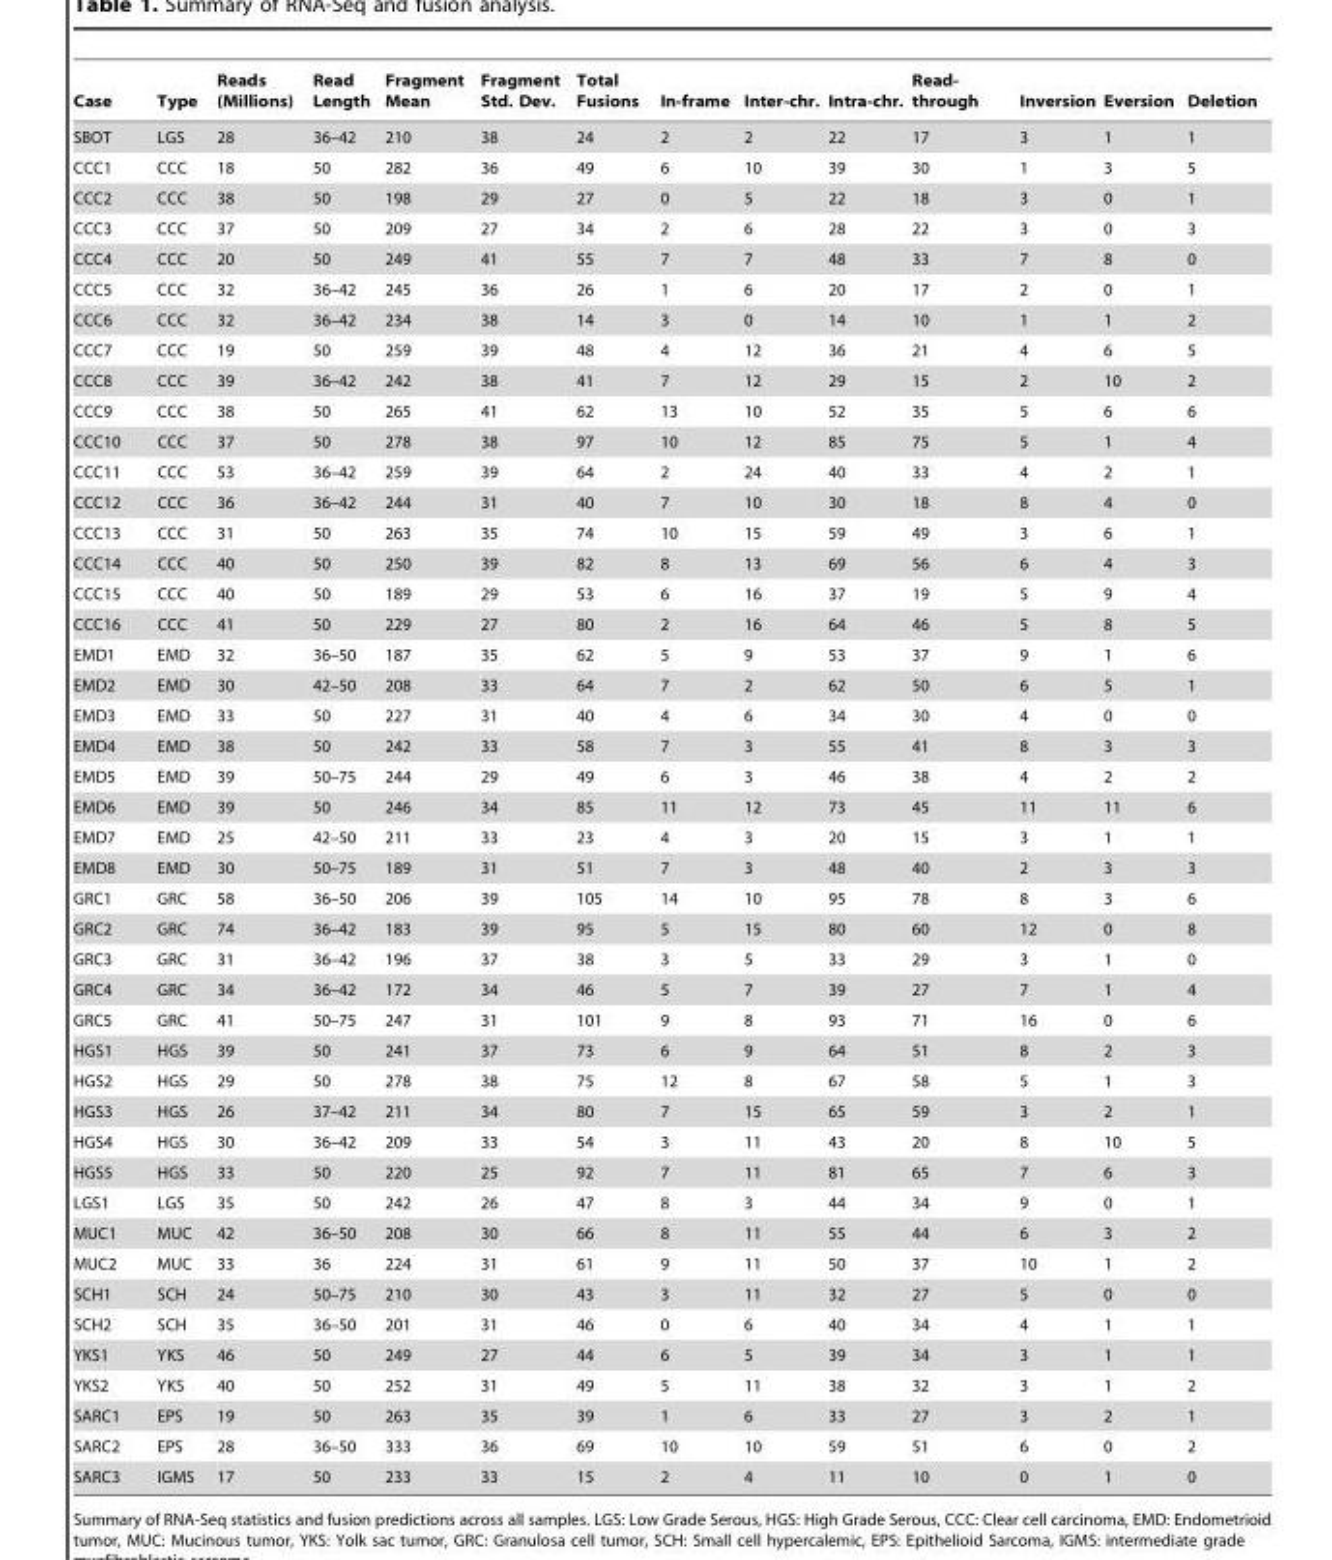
<table><thead><tr><td>Case</td><td>Type</td><td>Reads (Millions)</td><td>Read Length</td><td>Fragment Mean</td><td>Fragment Std. Dev.</td><td>Total Fusions</td><td>In-frame</td><td>Inter-chr.</td><td>Intra-chr.</td><td>Read- through</td><td>Inversion</td><td>Eversion</td><td>Deletion</td></tr></thead><tbody><tr><td>SBOT</td><td>LGS</td><td>28</td><td>36–42</td><td>210</td><td>38</td><td>24</td><td>2</td><td>2</td><td>22</td><td>17</td><td>3</td><td>1</td><td>1</td></tr><tr><td>CCC1</td><td>CCC</td><td>18</td><td>50</td><td>282</td><td>36</td><td>49</td><td>6</td><td>10</td><td>39</td><td>30</td><td>1</td><td>3</td><td>5</td></tr><tr><td>CCC2</td><td>CCC</td><td>38</td><td>50</td><td>198</td><td>29</td><td>27</td><td>0</td><td>5</td><td>22</td><td>18</td><td>3</td><td>0</td><td>1</td></tr><tr><td>CCC3</td><td>CCC</td><td>37</td><td>50</td><td>209</td><td>27</td><td>34</td><td>2</td><td>6</td><td>28</td><td>22</td><td>3</td><td>0</td><td>3</td></tr><tr><td>CCC4</td><td>CCC</td><td>20</td><td>50</td><td>249</td><td>41</td><td>55</td><td>7</td><td>7</td><td>48</td><td>33</td><td>7</td><td>8</td><td>0</td></tr><tr><td>CCC5</td><td>CCC</td><td>32</td><td>36–42</td><td>245</td><td>36</td><td>26</td><td>1</td><td>6</td><td>20</td><td>17</td><td>2</td><td>0</td><td>1</td></tr><tr><td>CCC6</td><td>CCC</td><td>32</td><td>36–42</td><td>234</td><td>38</td><td>14</td><td>3</td><td>0</td><td>14</td><td>10</td><td>1</td><td>1</td><td>2</td></tr><tr><td>CCC7</td><td>CCC</td><td>19</td><td>50</td><td>259</td><td>39</td><td>48</td><td>4</td><td>12</td><td>36</td><td>21</td><td>4</td><td>6</td><td>5</td></tr><tr><td>CCC8</td><td>CCC</td><td>39</td><td>36–42</td><td>242</td><td>38</td><td>41</td><td>7</td><td>12</td><td>29</td><td>15</td><td>2</td><td>10</td><td>2</td></tr><tr><td>CCC9</td><td>CCC</td><td>38</td><td>50</td><td>265</td><td>41</td><td>62</td><td>13</td><td>10</td><td>52</td><td>35</td><td>5</td><td>6</td><td>6</td></tr><tr><td>CCC10</td><td>CCC</td><td>37</td><td>50</td><td>278</td><td>38</td><td>97</td><td>10</td><td>12</td><td>85</td><td>75</td><td>5</td><td>1</td><td>4</td></tr><tr><td>CCC11</td><td>CCC</td><td>53</td><td>36–42</td><td>259</td><td>39</td><td>64</td><td>2</td><td>24</td><td>40</td><td>33</td><td>4</td><td>2</td><td>1</td></tr><tr><td>CCC12</td><td>CCC</td><td>36</td><td>36–42</td><td>244</td><td>31</td><td>40</td><td>7</td><td>10</td><td>30</td><td>18</td><td>8</td><td>4</td><td>0</td></tr><tr><td>CCC13</td><td>CCC</td><td>31</td><td>50</td><td>263</td><td>35</td><td>74</td><td>10</td><td>15</td><td>59</td><td>49</td><td>3</td><td>6</td><td>1</td></tr><tr><td>CCC14</td><td>CCC</td><td>40</td><td>50</td><td>250</td><td>39</td><td>82</td><td>8</td><td>13</td><td>69</td><td>56</td><td>6</td><td>4</td><td>3</td></tr><tr><td>CCC15</td><td>CCC</td><td>40</td><td>50</td><td>189</td><td>29</td><td>53</td><td>6</td><td>16</td><td>37</td><td>19</td><td>5</td><td>9</td><td>4</td></tr><tr><td>CCC16</td><td>CCC</td><td>41</td><td>50</td><td>229</td><td>27</td><td>80</td><td>2</td><td>16</td><td>64</td><td>46</td><td>5</td><td>8</td><td>5</td></tr><tr><td>EMD1</td><td>EMD</td><td>32</td><td>36–50</td><td>187</td><td>35</td><td>62</td><td>5</td><td>9</td><td>53</td><td>37</td><td>9</td><td>1</td><td>6</td></tr><tr><td>EMD2</td><td>EMD</td><td>30</td><td>42–50</td><td>208</td><td>33</td><td>64</td><td>7</td><td>2</td><td>62</td><td>50</td><td>6</td><td>5</td><td>1</td></tr><tr><td>EMD3</td><td>EMD</td><td>33</td><td>50</td><td>227</td><td>31</td><td>40</td><td>4</td><td>6</td><td>34</td><td>30</td><td>4</td><td>0</td><td>0</td></tr><tr><td>EMD4</td><td>EMD</td><td>38</td><td>50</td><td>242</td><td>33</td><td>58</td><td>7</td><td>3</td><td>55</td><td>41</td><td>8</td><td>3</td><td>3</td></tr><tr><td>EMD5</td><td>EMD</td><td>39</td><td>50–75</td><td>244</td><td>29</td><td>49</td><td>6</td><td>3</td><td>46</td><td>38</td><td>4</td><td>2</td><td>2</td></tr><tr><td>EMD6</td><td>EMD</td><td>39</td><td>50</td><td>246</td><td>34</td><td>85</td><td>11</td><td>12</td><td>73</td><td>45</td><td>11</td><td>11</td><td>6</td></tr><tr><td>EMD7</td><td>EMD</td><td>25</td><td>42–50</td><td>211</td><td>33</td><td>23</td><td>4</td><td>3</td><td>20</td><td>15</td><td>3</td><td>1</td><td>1</td></tr><tr><td>EMD8</td><td>EMD</td><td>30</td><td>50–75</td><td>189</td><td>31</td><td>51</td><td>7</td><td>3</td><td>48</td><td>40</td><td>2</td><td>3</td><td>3</td></tr><tr><td>GRC1</td><td>GRC</td><td>58</td><td>36–50</td><td>206</td><td>39</td><td>105</td><td>14</td><td>10</td><td>95</td><td>78</td><td>8</td><td>3</td><td>6</td></tr><tr><td>GRC2</td><td>GRC</td><td>74</td><td>36–42</td><td>183</td><td>39</td><td>95</td><td>5</td><td>15</td><td>80</td><td>60</td><td>12</td><td>0</td><td>8</td></tr><tr><td>GRC3</td><td>GRC</td><td>31</td><td>36–42</td><td>196</td><td>37</td><td>38</td><td>3</td><td>5</td><td>33</td><td>29</td><td>3</td><td>1</td><td>0</td></tr><tr><td>GRC4</td><td>GRC</td><td>34</td><td>36–42</td><td>172</td><td>34</td><td>46</td><td>5</td><td>7</td><td>39</td><td>27</td><td>7</td><td>1</td><td>4</td></tr><tr><td>GRC5</td><td>GRC</td><td>41</td><td>50–75</td><td>247</td><td>31</td><td>101</td><td>9</td><td>8</td><td>93</td><td>71</td><td>16</td><td>0</td><td>6</td></tr><tr><td>HGS1</td><td>HGS</td><td>39</td><td>50</td><td>241</td><td>37</td><td>73</td><td>6</td><td>9</td><td>64</td><td>51</td><td>8</td><td>2</td><td>3</td></tr><tr><td>HGS2</td><td>HGS</td><td>29</td><td>50</td><td>278</td><td>38</td><td>75</td><td>12</td><td>8</td><td>67</td><td>58</td><td>5</td><td>1</td><td>3</td></tr><tr><td>HGS3</td><td>HGS</td><td>26</td><td>37–42</td><td>211</td><td>34</td><td>80</td><td>7</td><td>15</td><td>65</td><td>59</td><td>3</td><td>2</td><td>1</td></tr><tr><td>HGS4</td><td>HGS</td><td>30</td><td>36–42</td><td>209</td><td>33</td><td>54</td><td>3</td><td>11</td><td>43</td><td>20</td><td>8</td><td>10</td><td>5</td></tr><tr><td>HGS5</td><td>HGS</td><td>33</td><td>50</td><td>220</td><td>25</td><td>92</td><td>7</td><td>11</td><td>81</td><td>65</td><td>7</td><td>6</td><td>3</td></tr><tr><td>LGS1</td><td>LGS</td><td>35</td><td>50</td><td>242</td><td>26</td><td>47</td><td>8</td><td>3</td><td>44</td><td>34</td><td>9</td><td>0</td><td>1</td></tr><tr><td>MUC1</td><td>MUC</td><td>42</td><td>36–50</td><td>208</td><td>30</td><td>66</td><td>8</td><td>11</td><td>55</td><td>44</td><td>6</td><td>3</td><td>2</td></tr><tr><td>MUC2</td><td>MUC</td><td>33</td><td>36</td><td>224</td><td>31</td><td>61</td><td>9</td><td>11</td><td>50</td><td>37</td><td>10</td><td>1</td><td>2</td></tr><tr><td>SCH1</td><td>SCH</td><td>24</td><td>50–75</td><td>210</td><td>30</td><td>43</td><td>3</td><td>11</td><td>32</td><td>27</td><td>5</td><td>0</td><td>0</td></tr><tr><td>SCH2</td><td>SCH</td><td>35</td><td>36–50</td><td>201</td><td>31</td><td>46</td><td>0</td><td>6</td><td>40</td><td>34</td><td>4</td><td>1</td><td>1</td></tr><tr><td>YKS1</td><td>YKS</td><td>46</td><td>50</td><td>249</td><td>27</td><td>44</td><td>6</td><td>5</td><td>39</td><td>34</td><td>3</td><td>1</td><td>1</td></tr><tr><td>YKS2</td><td>YKS</td><td>40</td><td>50</td><td>252</td><td>31</td><td>49</td><td>5</td><td>11</td><td>38</td><td>32</td><td>3</td><td>1</td><td>2</td></tr><tr><td>SARC1</td><td>EPS</td><td>19</td><td>50</td><td>263</td><td>35</td><td>39</td><td>1</td><td>6</td><td>33</td><td>27</td><td>3</td><td>2</td><td>1</td></tr><tr><td>SARC2</td><td>EPS</td><td>28</td><td>36–50</td><td>333</td><td>36</td><td>69</td><td>10</td><td>10</td><td>59</td><td>51</td><td>6</td><td>0</td><td>2</td></tr><tr><td>SARC3</td><td>IGMS</td><td>17</td><td>50</td><td>233</td><td>33</td><td>15</td><td>2</td><td>4</td><td>11</td><td>10</td><td>0</td><td>1</td><td>0</td></tr></tbody></table>